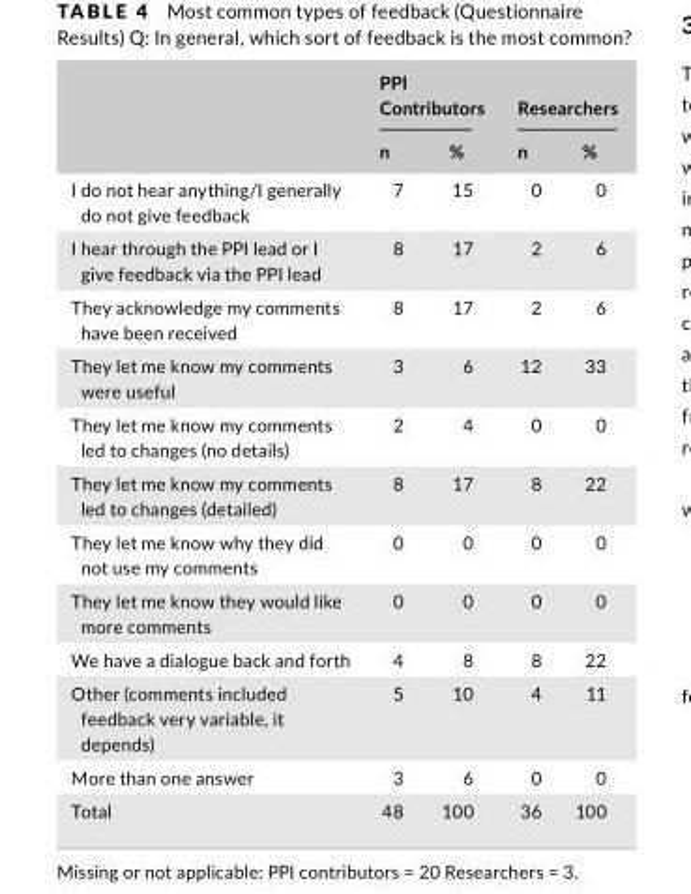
<table><thead><tr><td rowspan="2"></td><td colspan="2">PPI Contributors</td><td colspan="2">Researchers</td></tr><tr><td>n</td><td>%</td><td>n</td><td>%</td></tr></thead><tbody><tr><td>I do not hear anything/I generally do not give feedback</td><td>7</td><td>15</td><td>0</td><td>0</td></tr><tr><td>I hear through the PPI lead or I give feedback via the PPI lead</td><td>8</td><td>17</td><td>2</td><td>6</td></tr><tr><td>They acknowledge my comments have been received</td><td>8</td><td>17</td><td>2</td><td>6</td></tr><tr><td>They let me know my comments were useful</td><td>3</td><td>6</td><td>12</td><td>33</td></tr><tr><td>They let me know my comments led to changes (no details)</td><td>2</td><td>4</td><td>0</td><td>0</td></tr><tr><td>They let me know my comments led to changes (detailed)</td><td>8</td><td>17</td><td>8</td><td>22</td></tr><tr><td>They let me know why they did not use my comments</td><td>0</td><td>0</td><td>0</td><td>0</td></tr><tr><td>They let me know they would like more comments</td><td>0</td><td>0</td><td>0</td><td>0</td></tr><tr><td>We have a dialogue back and forth</td><td>4</td><td>8</td><td>8</td><td>22</td></tr><tr><td>Other (comments included feedback very variable, it depends)</td><td>5</td><td>10</td><td>4</td><td>11</td></tr><tr><td>More than one answer</td><td>3</td><td>6</td><td>0</td><td>0</td></tr><tr><td>Total</td><td>48</td><td>100</td><td>36</td><td>100</td></tr></tbody></table>